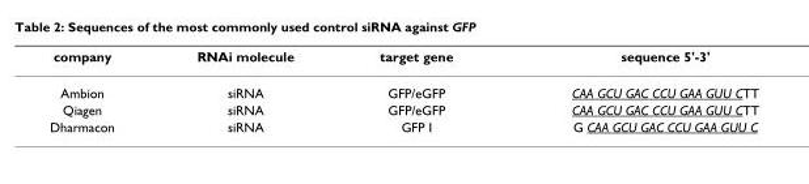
<table><thead><tr><td>company</td><td>RNAi molecule</td><td>target gene</td><td>sequence 5&#x27;-3&#x27;</td></tr></thead><tbody><tr><td>Ambion</td><td>siRNA</td><td>GFP/eGFP</td><td>CAA GCU GAC CCU GAA GUU CTT</td></tr><tr><td>Qiagen</td><td>siRNA</td><td>GFP/eGFP</td><td>CAA GCU GAC CCU GAA GUU CTT</td></tr><tr><td>Dharmacon</td><td>siRNA</td><td>GFP I</td><td>G CAA GCU GAC CCU GAA GUU C</td></tr></tbody></table>